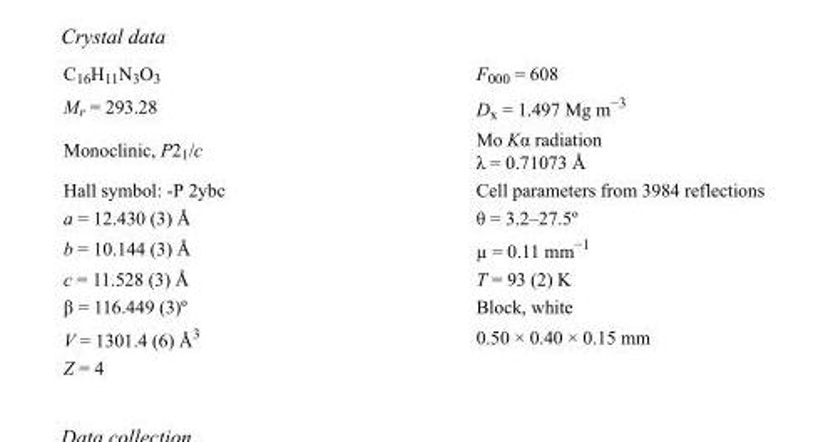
<table><tbody><tr><td>C<sub>16</sub>H<sub>11</sub>N<sub>3</sub>O<sub>3</sub></td><td>F<sub>000</sub> = 608</td></tr><tr><td>M<sub>r</sub> = 293.28</td><td>D<sub>x</sub> = 1.497 Mg m<sup>−3</sup></td></tr><tr><td>Monoclinic, P2<sub>1</sub>/c</td><td>Mo Kα radiation λ = 0.71073 Å</td></tr><tr><td>Hall symbol: -P 2ybc</td><td>Cell parameters from 3984 reflections</td></tr><tr><td>a = 12.430 (3) Å</td><td>θ = 3.2–27.5º</td></tr><tr><td>b = 10.144 (3) Å</td><td>µ = 0.11 mm<sup>−1</sup></td></tr><tr><td>c = 11.528 (3) Å</td><td>T = 93 (2) K</td></tr><tr><td>β = 116.449 (3)º</td><td>Block, white</td></tr><tr><td>V = 1301.4 (6) Å<sup>3</sup></td><td>0.50 × 0.40 × 0.15 mm</td></tr><tr><td>Z = 4</td><td></td></tr></tbody></table>